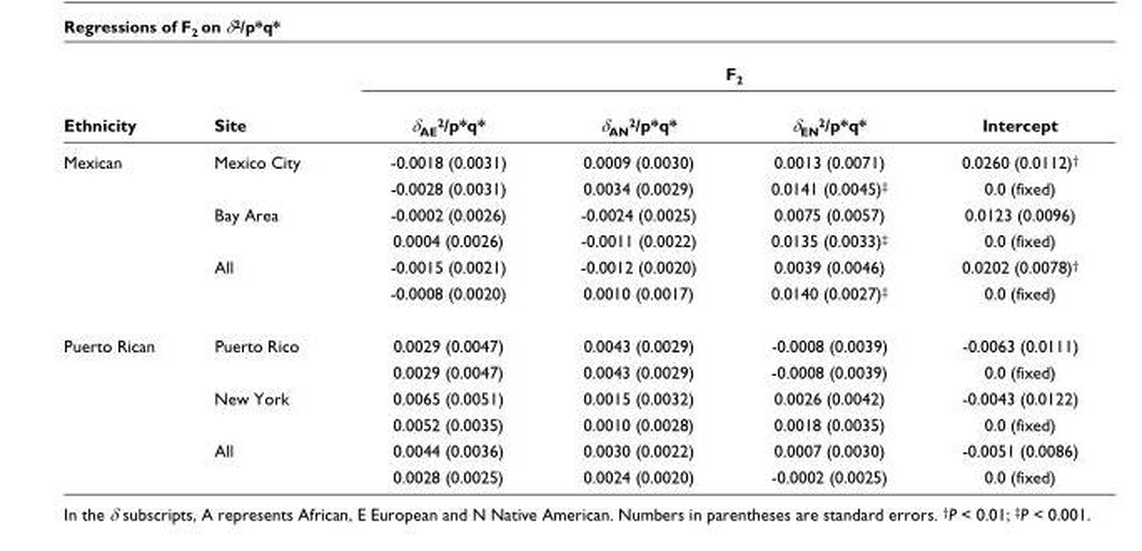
<table><thead><tr><td rowspan="2">Ethnicity</td><td rowspan="2">Site</td><td colspan="4">F<sub>2</sub></td></tr><tr><td>δ<sub>AE</sub><sup>2</sup>/p*q*</td><td>δ<sub>AN</sub><sup>2</sup>/p*q*</td><td>δ<sub>EN</sub><sup>2</sup>/p*q*</td><td>Intercept</td></tr></thead><tbody><tr><td rowspan="6">Mexican</td><td>Mexico City</td><td>-0.0018 (0.0031)</td><td>0.0009 (0.0030)</td><td>0.0013 (0.0071)</td><td>0.0260 (0.0112)<sup>†</sup></td></tr><tr><td></td><td>-0.0028 (0.0031)</td><td>0.0034 (0.0029)</td><td>0.0141 (0.0045)<sup>‡</sup></td><td>0.0 (fixed)</td></tr><tr><td>Bay Area</td><td>-0.0002 (0.0026)</td><td>-0.0024 (0.0025)</td><td>0.0075 (0.0057)</td><td>0.0123 (0.0096)</td></tr><tr><td></td><td>0.0004 (0.0026)</td><td>-0.0011 (0.0022)</td><td>0.0135 (0.0033)<sup>‡</sup></td><td>0.0 (fixed)</td></tr><tr><td>All</td><td>-0.0015 (0.0021)</td><td>-0.0012 (0.0020)</td><td>0.0039 (0.0046)</td><td>0.0202 (0.0078)<sup>†</sup></td></tr><tr><td></td><td>-0.0008 (0.0020)</td><td>0.0010 (0.0017)</td><td>0.0140 (0.0027)<sup>‡</sup></td><td>0.0 (fixed)</td></tr><tr><td rowspan="6">Puerto Rican</td><td>Puerto Rico</td><td>0.0029 (0.0047)</td><td>0.0043 (0.0029)</td><td>-0.0008 (0.0039)</td><td>-0.0063 (0.0111)</td></tr><tr><td></td><td>0.0029 (0.0047)</td><td>0.0043 (0.0029)</td><td>-0.0008 (0.0039)</td><td>0.0 (fixed)</td></tr><tr><td>New York</td><td>0.0065 (0.0051)</td><td>0.0015 (0.0032)</td><td>0.0026 (0.0042)</td><td>-0.0043 (0.0122)</td></tr><tr><td></td><td>0.0052 (0.0035)</td><td>0.0010 (0.0028)</td><td>0.0018 (0.0035)</td><td>0.0 (fixed)</td></tr><tr><td>All</td><td>0.0044 (0.0036)</td><td>0.0030 (0.0022)</td><td>0.0007 (0.0030)</td><td>-0.0051 (0.0086)</td></tr><tr><td></td><td>0.0028 (0.0025)</td><td>0.0024 (0.0020)</td><td>-0.0002 (0.0025)</td><td>0.0 (fixed)</td></tr></tbody></table>